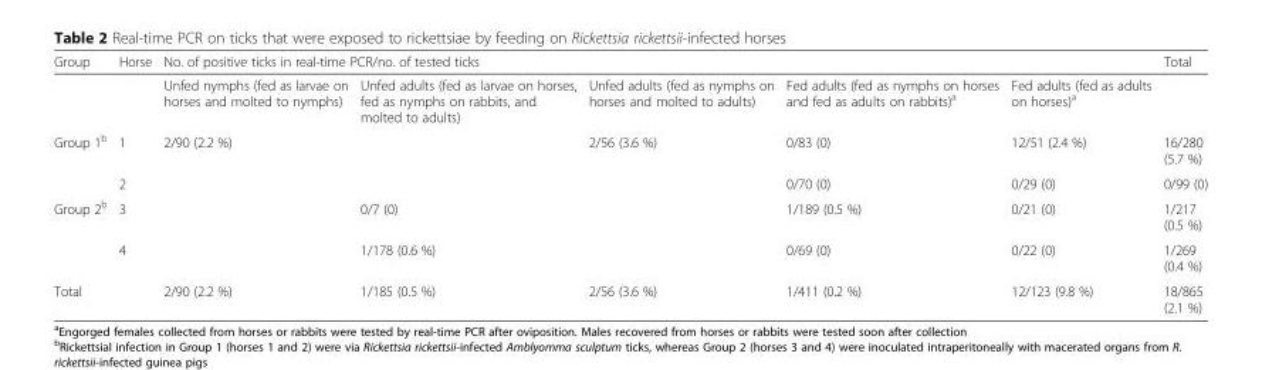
<table><thead><tr><td rowspan="2">Group</td><td rowspan="2">Horse</td><td colspan="5">No. of positive ticks in real-time PCR/no. of tested ticks</td><td rowspan="2">Total</td></tr><tr><td>Unfed nymphs (fed as larvae on horses and molted to nymphs)</td><td>Unfed adults (fed as larvae on horses, fed as nymphs on rabbits, and molted to adults)</td><td>Unfed adults (fed as nymphs on horses and molted to adults)</td><td>Fed adults (fed as nymphs on horses and fed as adults on rabbits)<sup>a</sup></td><td>Fed adults (fed as adults on horses)<sup>a</sup></td></tr></thead><tbody><tr><td rowspan="2">Group 1<sup>b</sup></td><td>1</td><td>2/90 (2.2 %)</td><td></td><td>2/56 (3.6 %)</td><td>0/83 (0)</td><td>12/51 (2.4 %)</td><td>16/280 (5.7 %)</td></tr><tr><td>2</td><td></td><td></td><td></td><td>0/70 (0)</td><td>0/29 (0)</td><td>0/99 (0)</td></tr><tr><td rowspan="2">Group 2<sup>b</sup></td><td>3</td><td></td><td>0/7 (0)</td><td></td><td>1/189 (0.5 %)</td><td>0/21 (0)</td><td>1/217 (0.5 %)</td></tr><tr><td>4</td><td></td><td>1/178 (0.6 %)</td><td></td><td>0/69 (0)</td><td>0/22 (0)</td><td>1/269 (0.4 %)</td></tr><tr><td>Total</td><td></td><td>2/90 (2.2 %)</td><td>1/185 (0.5 %)</td><td>2/56 (3.6 %)</td><td>1/411 (0.2 %)</td><td>12/123 (9.8 %)</td><td>18/865 (2.1 %)</td></tr></tbody></table>